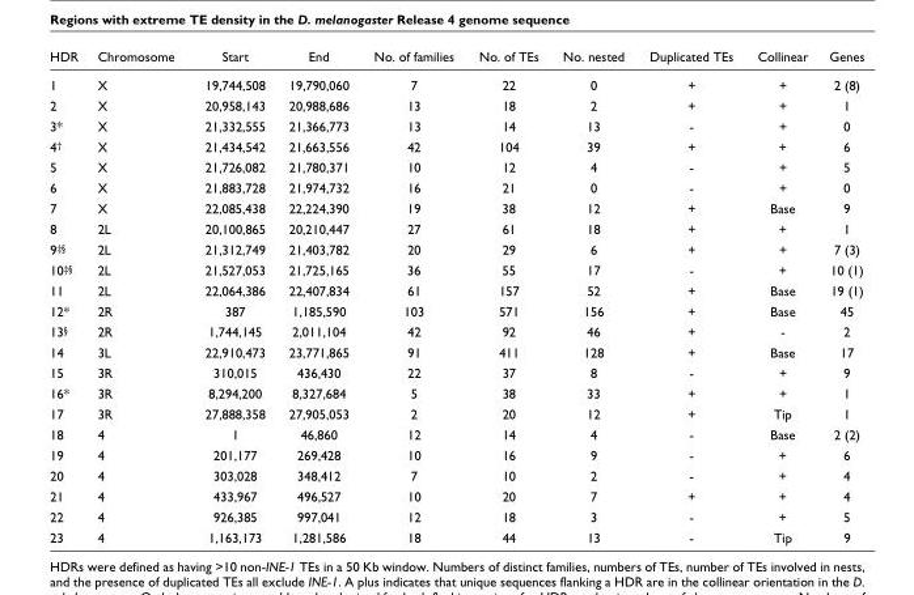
<table><thead><tr><td>HDR</td><td>Chromosome</td><td>Start</td><td>End</td><td>No. of families</td><td>No. of TEs</td><td>No. nested</td><td>Duplicated TEs</td><td>Collinear</td><td>Genes</td></tr></thead><tbody><tr><td>1</td><td>X</td><td>19,744,508</td><td>19,790,060</td><td>7</td><td>22</td><td>0</td><td>+</td><td>+</td><td>2 (8)</td></tr><tr><td>2</td><td>X</td><td>20,958,143</td><td>20,988,686</td><td>13</td><td>18</td><td>2</td><td>+</td><td>+</td><td>1</td></tr><tr><td>3*</td><td>X</td><td>21,332,555</td><td>21,366,773</td><td>13</td><td>14</td><td>13</td><td>-</td><td>+</td><td>0</td></tr><tr><td>4†</td><td>X</td><td>21,434,542</td><td>21,663,556</td><td>42</td><td>104</td><td>39</td><td>+</td><td>+</td><td>6</td></tr><tr><td>5</td><td>X</td><td>21,726,082</td><td>21,780,371</td><td>10</td><td>12</td><td>4</td><td>-</td><td>+</td><td>5</td></tr><tr><td>6</td><td>X</td><td>21,883,728</td><td>21,974,732</td><td>16</td><td>21</td><td>0</td><td>-</td><td>+</td><td>0</td></tr><tr><td>7</td><td>X</td><td>22,085,438</td><td>22,224,390</td><td>19</td><td>38</td><td>12</td><td>+</td><td>Base</td><td>9</td></tr><tr><td>8</td><td>2L</td><td>20,100,865</td><td>20,210,447</td><td>27</td><td>61</td><td>18</td><td>+</td><td>+</td><td>1</td></tr><tr><td>9‡§</td><td>2L</td><td>21,312,749</td><td>21,403,782</td><td>20</td><td>29</td><td>6</td><td>+</td><td>+</td><td>7 (3)</td></tr><tr><td>10‡§</td><td>2L</td><td>21,527,053</td><td>21,725,165</td><td>36</td><td>55</td><td>17</td><td>-</td><td>+</td><td>10 (1)</td></tr><tr><td>11</td><td>2L</td><td>22,064,386</td><td>22,407,834</td><td>61</td><td>157</td><td>52</td><td>+</td><td>Base</td><td>19 (1)</td></tr><tr><td>12*</td><td>2R</td><td>387</td><td>1,185,590</td><td>103</td><td>571</td><td>156</td><td>+</td><td>Base</td><td>45</td></tr><tr><td>13§</td><td>2R</td><td>1,744,145</td><td>2,011,104</td><td>42</td><td>92</td><td>46</td><td>+</td><td>-</td><td>2</td></tr><tr><td>14</td><td>3L</td><td>22,910,473</td><td>23,771,865</td><td>91</td><td>411</td><td>128</td><td>+</td><td>Base</td><td>17</td></tr><tr><td>15</td><td>3R</td><td>310,015</td><td>436,430</td><td>22</td><td>37</td><td>8</td><td>-</td><td>+</td><td>9</td></tr><tr><td>16*</td><td>3R</td><td>8,294,200</td><td>8,327,684</td><td>5</td><td>38</td><td>33</td><td>+</td><td>+</td><td>1</td></tr><tr><td>17</td><td>3R</td><td>27,888,358</td><td>27,905,053</td><td>2</td><td>20</td><td>12</td><td>+</td><td>Tip</td><td>1</td></tr><tr><td>18</td><td>4</td><td>1</td><td>46,860</td><td>12</td><td>14</td><td>4</td><td>-</td><td>Base</td><td>2 (2)</td></tr><tr><td>19</td><td>4</td><td>201,177</td><td>269,428</td><td>10</td><td>16</td><td>9</td><td>-</td><td>+</td><td>6</td></tr><tr><td>20</td><td>4</td><td>303,028</td><td>348,412</td><td>7</td><td>10</td><td>2</td><td>-</td><td>+</td><td>4</td></tr><tr><td>21</td><td>4</td><td>433,967</td><td>496,527</td><td>10</td><td>20</td><td>7</td><td>+</td><td>+</td><td>4</td></tr><tr><td>22</td><td>4</td><td>926,385</td><td>997,041</td><td>12</td><td>18</td><td>3</td><td>-</td><td>+</td><td>5</td></tr><tr><td>23</td><td>4</td><td>1,163,173</td><td>1,281,586</td><td>18</td><td>44</td><td>13</td><td>-</td><td>Tip</td><td>9</td></tr></tbody></table>